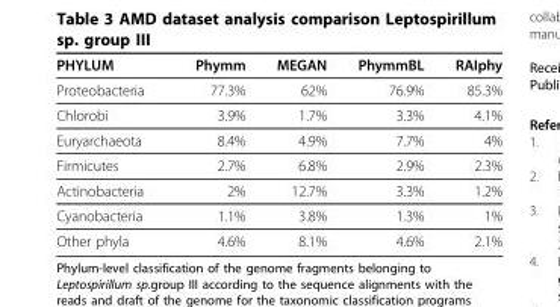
<table><thead><tr><td>PHYLUM</td><td>Phymm</td><td>MEGAN</td><td>PhymmBL</td><td>RAIphy</td></tr></thead><tbody><tr><td>Proteobacteria</td><td>77.3%</td><td>62%</td><td>76.9%</td><td>85.3%</td></tr><tr><td>Chlorobi</td><td>3.9%</td><td>1.7%</td><td>3.3%</td><td>4.1%</td></tr><tr><td>Euryarchaeota</td><td>8.4%</td><td>4.9%</td><td>7.7%</td><td>4%</td></tr><tr><td>Firmicutes</td><td>2.7%</td><td>6.8%</td><td>2.9%</td><td>2.3%</td></tr><tr><td>Actinobacteria</td><td>2%</td><td>12.7%</td><td>3.3%</td><td>1.2%</td></tr><tr><td>Cyanobacteria</td><td>1.1%</td><td>3.8%</td><td>1.3%</td><td>1%</td></tr><tr><td>Other phyla</td><td>4.6%</td><td>8.1%</td><td>4.6%</td><td>2.1%</td></tr></tbody></table>